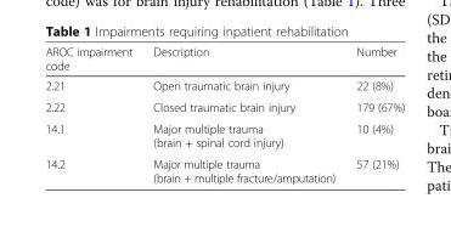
<table><thead><tr><td>AROC impairment code</td><td>Description</td><td>Number</td></tr></thead><tbody><tr><td>2.21</td><td>Open traumatic brain injury</td><td>22 (8%)</td></tr><tr><td>2.22</td><td>Closed traumatic brain injury</td><td>179 (67%)</td></tr><tr><td>14.1</td><td>Major multiple trauma (brain + spinal cord injury)</td><td>10 (4%)</td></tr><tr><td>14.2</td><td>Major multiple trauma (brain + multiple fracture/amputation)</td><td>57 (21%)</td></tr></tbody></table>